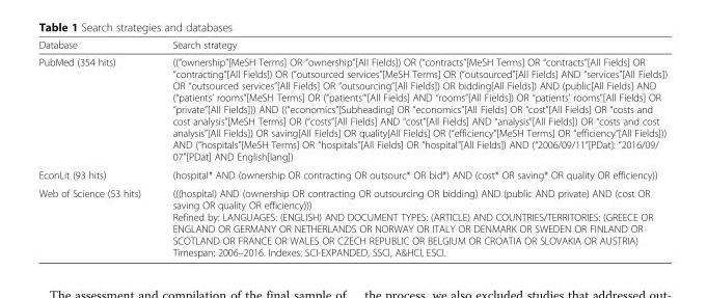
<table><thead><tr><td>Database</td><td>Search strategy</td></tr></thead><tbody><tr><td>PubMed (354 hits)</td><td>((“ownership”[MeSH Terms] OR “ownership”[All Fields]) OR (“contracts”[MeSH Terms] OR “contracts”[All Fields] OR “contracting”[All Fields]) OR (“outsourced services”[MeSH Terms] OR (“outsourced”[All Fields] AND “services”[All Fields]) OR “outsourced services”[All Fields] OR “outsourcing”[All Fields]) OR bidding[All Fields]) AND (public[All Fields] AND (“patients’ rooms”[MeSH Terms] OR (“patients’“[All Fields] AND “rooms”[All Fields]) OR “patients’ rooms”[All Fields] OR “private”[All Fields])) AND ((“economics”[Subheading] OR “economics”[All Fields] OR “cost”[All Fields] OR “costs and cost analysis”[MeSH Terms] OR (“costs”[All Fields] AND “cost”[All Fields] AND “analysis”[All Fields]) OR “costs and cost analysis”[All Fields]) OR saving[All Fields] OR quality[All Fields] OR (“efficiency”[MeSH Terms] OR “efficiency”[All Fields])) AND (“hospitals”[MeSH Terms] OR “hospitals”[All Fields] OR “hospital”[All Fields]) AND (“2006/09/11”[PDat]: “2016/09/ 07”[PDat] AND English[lang])</td></tr><tr><td>EconLit (93 hits)</td><td>(hospital* AND (ownership OR contracting OR outsourc* OR bid*) AND (cost* OR saving* OR quality OR efficiency))</td></tr><tr><td>Web of Science (53 hits)</td><td>(((hospital) AND (ownership OR contracting OR outsourcing OR bidding) AND (public AND private) AND (cost OR saving OR quality OR efficiency))) Refined by: LANGUAGES: (ENGLISH) AND DOCUMENT TYPES: (ARTICLE) AND COUNTRIES/TERRITORIES: (GREECE OR ENGLAND OR GERMANY OR NETHERLANDS OR NORWAY OR ITALY OR DENMARK OR SWEDEN OR FINLAND OR SCOTLAND OR FRANCE OR WALES OR CZECH REPUBLIC OR BELGIUM OR CROATIA OR SLOVAKIA OR AUSTRIA) Timespan: 2006–2016. Indexes: SCI-EXPANDED, SSCI, A&amp;HCI, ESCI.</td></tr></tbody></table>